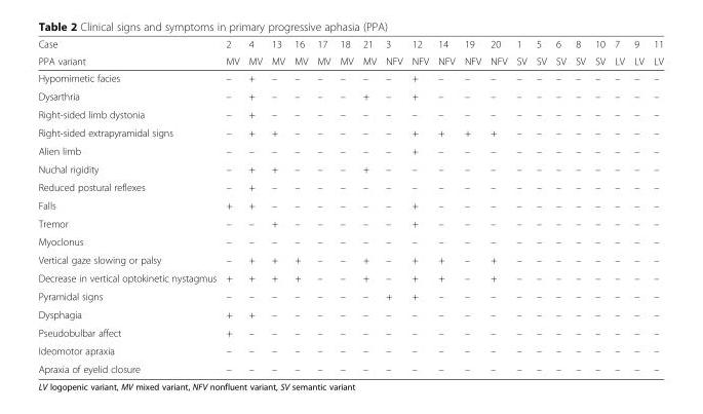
<table><thead><tr><td rowspan="2">Case PPA variant</td><td rowspan="2">2 MV</td><td rowspan="2">4 MV</td><td rowspan="2">13 MV</td><td rowspan="2">16 MV</td><td rowspan="2">17 MV</td><td rowspan="2">18 MV</td><td rowspan="2">21 MV</td><td rowspan="2">3 NFV</td><td rowspan="2">12 NFV</td><td rowspan="2">14 NFV</td><td rowspan="2">19 NFV</td><td rowspan="2">20 NFV</td><td rowspan="2">1 SV</td><td rowspan="2">5 SV</td><td rowspan="2">6 SV</td><td rowspan="2">8 SV</td><td rowspan="2">10 SV</td><td rowspan="2">7 LV</td><td rowspan="2">9 LV</td><td rowspan="2">11 LV</td></tr><tr></tr></thead><tbody><tr><td>Hypomimetic facies</td><td>–</td><td>+</td><td>–</td><td>–</td><td>–</td><td>–</td><td>–</td><td>–</td><td>+</td><td>–</td><td>–</td><td>–</td><td>–</td><td>–</td><td>–</td><td>–</td><td>–</td><td>–</td><td>–</td><td>–</td></tr><tr><td>Dysarthria</td><td>–</td><td>+</td><td>–</td><td>–</td><td>–</td><td>–</td><td>+</td><td>–</td><td>+</td><td>–</td><td>–</td><td>–</td><td>–</td><td>–</td><td>–</td><td>–</td><td>–</td><td>–</td><td>–</td><td>–</td></tr><tr><td>Right-sided limb dystonia</td><td>–</td><td>+</td><td>–</td><td>–</td><td>–</td><td>–</td><td>–</td><td>–</td><td>–</td><td>–</td><td>–</td><td>–</td><td>–</td><td>–</td><td>–</td><td>–</td><td>–</td><td>–</td><td>–</td><td>–</td></tr><tr><td>Right-sided extrapyramidal signs</td><td>–</td><td>+</td><td>+</td><td>–</td><td>–</td><td>–</td><td>–</td><td>–</td><td>+</td><td>+</td><td>+</td><td>+</td><td>–</td><td>–</td><td>–</td><td>–</td><td>–</td><td>–</td><td>–</td><td>–</td></tr><tr><td>Alien limb</td><td>–</td><td>–</td><td>–</td><td>–</td><td>–</td><td>–</td><td>–</td><td>–</td><td>+</td><td>–</td><td>–</td><td>–</td><td>–</td><td>–</td><td>–</td><td>–</td><td>–</td><td>–</td><td>–</td><td>–</td></tr><tr><td>Nuchal rigidity</td><td>–</td><td>+</td><td>+</td><td>–</td><td>–</td><td>–</td><td>+</td><td>–</td><td>–</td><td>–</td><td>–</td><td>–</td><td>–</td><td>–</td><td>–</td><td>–</td><td>–</td><td>–</td><td>–</td><td>–</td></tr><tr><td>Reduced postural reflexes</td><td>–</td><td>+</td><td>–</td><td>–</td><td>–</td><td>–</td><td>–</td><td>–</td><td>–</td><td>–</td><td>–</td><td>–</td><td>–</td><td>–</td><td>–</td><td>–</td><td>–</td><td>–</td><td>–</td><td>–</td></tr><tr><td>Falls</td><td>+</td><td>+</td><td>–</td><td>–</td><td>–</td><td>–</td><td>–</td><td>–</td><td>+</td><td>–</td><td>–</td><td>–</td><td>–</td><td>–</td><td>–</td><td>–</td><td>–</td><td>–</td><td>–</td><td>–</td></tr><tr><td>Tremor</td><td>–</td><td>–</td><td>+</td><td>–</td><td>–</td><td>–</td><td>–</td><td>–</td><td>+</td><td>–</td><td>–</td><td>–</td><td>–</td><td>–</td><td>–</td><td>–</td><td>–</td><td>–</td><td>–</td><td>–</td></tr><tr><td>Myoclonus</td><td>–</td><td>–</td><td>–</td><td>–</td><td>–</td><td>–</td><td>–</td><td>–</td><td>–</td><td>–</td><td>–</td><td>–</td><td>–</td><td>–</td><td>–</td><td>–</td><td>–</td><td>–</td><td>–</td><td>–</td></tr><tr><td>Vertical gaze slowing or palsy</td><td>–</td><td>+</td><td>+</td><td>+</td><td>–</td><td>–</td><td>+</td><td>–</td><td>+</td><td>+</td><td>–</td><td>+</td><td>–</td><td>–</td><td>–</td><td>–</td><td>–</td><td>–</td><td>–</td><td>–</td></tr><tr><td>Decrease in vertical optokinetic nystagmus</td><td>+</td><td>+</td><td>+</td><td>+</td><td>–</td><td>–</td><td>+</td><td>–</td><td>+</td><td>+</td><td>–</td><td>+</td><td>–</td><td>–</td><td>–</td><td>–</td><td>–</td><td>–</td><td>–</td><td>–</td></tr><tr><td>Pyramidal signs</td><td>–</td><td>–</td><td>–</td><td>–</td><td>–</td><td>–</td><td>–</td><td>+</td><td>+</td><td>–</td><td>–</td><td>–</td><td>–</td><td>–</td><td>–</td><td>–</td><td>–</td><td>–</td><td>–</td><td>–</td></tr><tr><td>Dysphagia</td><td>+</td><td>+</td><td>–</td><td>–</td><td>–</td><td>–</td><td>–</td><td>–</td><td>–</td><td>–</td><td>–</td><td>–</td><td>–</td><td>–</td><td>–</td><td>–</td><td>–</td><td>–</td><td>–</td><td>–</td></tr><tr><td>Pseudobulbar affect</td><td>+</td><td>–</td><td>–</td><td>–</td><td>–</td><td>–</td><td>–</td><td>–</td><td>–</td><td>–</td><td>–</td><td>–</td><td>–</td><td>–</td><td>–</td><td>–</td><td>–</td><td>–</td><td>–</td><td>–</td></tr><tr><td>Ideomotor apraxia</td><td>–</td><td>–</td><td>–</td><td>–</td><td>–</td><td>–</td><td>–</td><td>–</td><td>–</td><td>–</td><td>–</td><td>–</td><td>–</td><td>–</td><td>–</td><td>–</td><td>–</td><td>–</td><td>–</td><td>–</td></tr><tr><td>Apraxia of eyelid closure</td><td>–</td><td>–</td><td>–</td><td>–</td><td>–</td><td>–</td><td>–</td><td>–</td><td>–</td><td>–</td><td>–</td><td>–</td><td>–</td><td>–</td><td>–</td><td>–</td><td>–</td><td>–</td><td>–</td><td>–</td></tr></tbody></table>